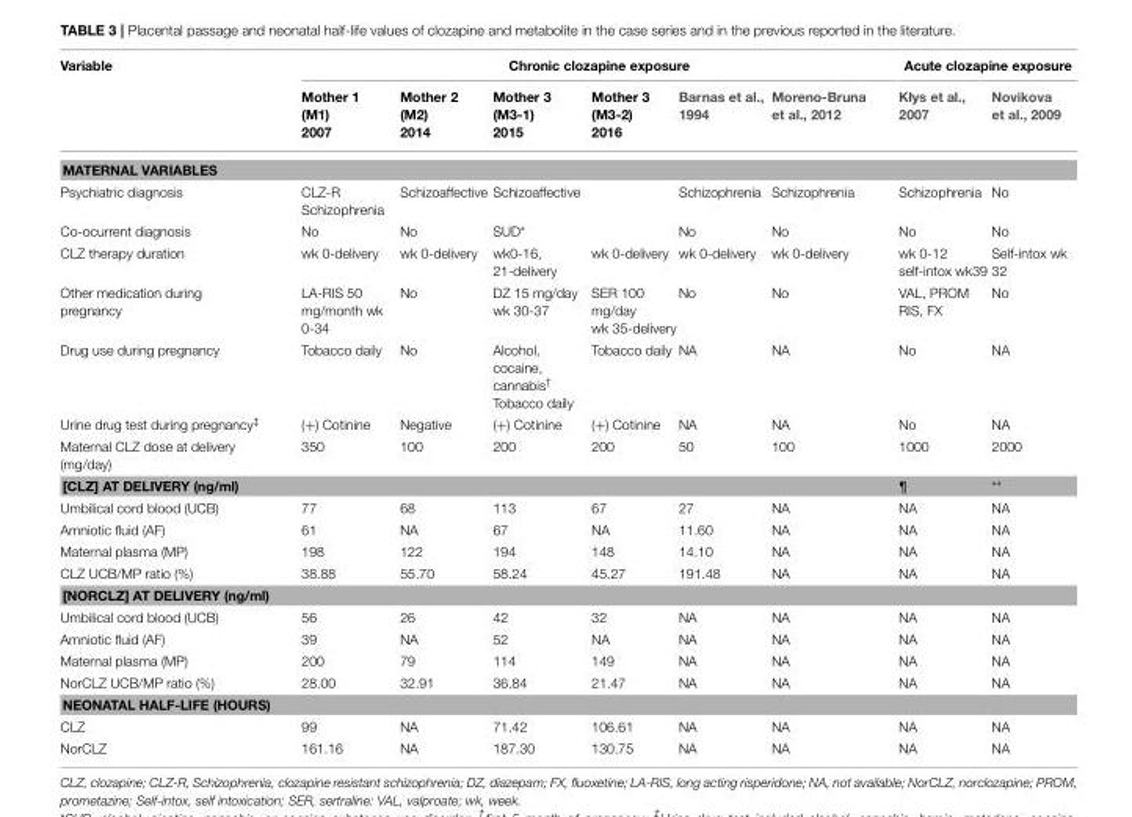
<table><thead><tr><td rowspan="2">Variable</td><td colspan="6">Chronic clozapine exposure</td><td colspan="2">Acute clozapine exposure</td></tr><tr><td>Mother 1 (M1) 2007</td><td>Mother 2 (M2) 2014</td><td>Mother 3 (M3-1) 2015</td><td>Mother 3 (M3-2) 2016</td><td>Barnas et al., 1994</td><td>Moreno-Bruna et al., 2012</td><td>Kłys et al., 2007</td><td>Novikova et al., 2009</td></tr></thead><tbody><tr><td colspan="9">MATERNAL VARIABLES</td></tr><tr><td>Psychiatric diagnosis</td><td>CLZ-R Schizophrenia</td><td>Schizoaffective</td><td>Schizoaffective</td><td></td><td>Schizophrenia</td><td>Schizophrenia</td><td>Schizophrenia</td><td>No</td></tr><tr><td>Co-ocurrent diagnosis</td><td>No</td><td>No</td><td>SUD*</td><td></td><td>No</td><td>No</td><td>No</td><td>No</td></tr><tr><td>CLZ therapy duration</td><td>wk 0-delivery</td><td>wk 0-delivery</td><td>wk0-16, 21-delivery</td><td>wk 0-delivery</td><td>wk 0-delivery</td><td>wk 0-delivery</td><td>wk 0-12 self-intox wk39</td><td>Self-intox wk 32</td></tr><tr><td>Other medication during pregnancy</td><td>LA-RIS 50 mg/month wk 0-34</td><td>No</td><td>DZ 15 mg/day wk 30-37</td><td>SER 100 mg/day wk 35-delivery</td><td>No</td><td>No</td><td>VAL, PROM RIS, FX</td><td>No</td></tr><tr><td>Drug use during pregnancy</td><td>Tobacco daily</td><td>No</td><td>Alcohol, cocaine, cannabis<sup>†</sup> Tobacco daily</td><td>Tobacco daily</td><td>NA</td><td>NA</td><td>No</td><td>NA</td></tr><tr><td>Urine drug test during pregnancy<sup>‡</sup></td><td>(+) Cotinine</td><td>Negative</td><td>(+) Cotinine</td><td>(+) Cotinine</td><td>NA</td><td>NA</td><td>No</td><td>NA</td></tr><tr><td>Maternal CLZ dose at delivery (mg/day)</td><td>350</td><td>100</td><td>200</td><td>200</td><td>50</td><td>100</td><td>1000</td><td>2000</td></tr><tr><td colspan="7">[CLZ] AT DELIVERY (ng/ml)</td><td><sup>¶</sup></td><td>**</td></tr><tr><td>Umbilical cord blood (UCB)</td><td>77</td><td>68</td><td>113</td><td>67</td><td>27</td><td>NA</td><td>NA</td><td>NA</td></tr><tr><td>Amniotic fluid (AF)</td><td>61</td><td>NA</td><td>67</td><td>NA</td><td>11.60</td><td>NA</td><td>NA</td><td>NA</td></tr><tr><td>Maternal plasma (MP)</td><td>198</td><td>122</td><td>194</td><td>148</td><td>14.10</td><td>NA</td><td>NA</td><td>NA</td></tr><tr><td>CLZ UCB/MP ratio (%)</td><td>38.88</td><td>55.70</td><td>58.24</td><td>45.27</td><td>191.48</td><td>NA</td><td>NA</td><td>NA</td></tr><tr><td colspan="9">[NORCLZ] AT DELIVERY (ng/ml)</td></tr><tr><td>Umbilical cord blood (UCB)</td><td>56</td><td>26</td><td>42</td><td>32</td><td>NA</td><td>NA</td><td>NA</td><td>NA</td></tr><tr><td>Amniotic fluid (AF)</td><td>39</td><td>NA</td><td>52</td><td>NA</td><td>NA</td><td>NA</td><td>NA</td><td>NA</td></tr><tr><td>Maternal plasma (MP)</td><td>200</td><td>79</td><td>114</td><td>149</td><td>NA</td><td>NA</td><td>NA</td><td>NA</td></tr><tr><td>NorCLZ UCB/MP ratio (%)</td><td>28.00</td><td>32.91</td><td>36.84</td><td>21.47</td><td>NA</td><td>NA</td><td>NA</td><td>NA</td></tr><tr><td colspan="9">NEONATAL HALF-LIFE (HOURS)</td></tr><tr><td>CLZ</td><td>99</td><td>NA</td><td>71.42</td><td>106.61</td><td>NA</td><td>NA</td><td>NA</td><td>NA</td></tr><tr><td>NorCLZ</td><td>161.16</td><td>NA</td><td>187.30</td><td>130.75</td><td>NA</td><td>NA</td><td>NA</td><td>NA</td></tr></tbody></table>